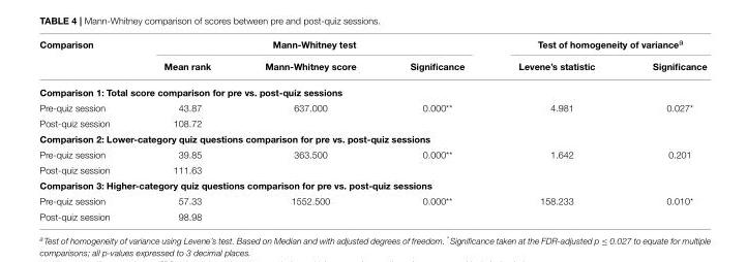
<table><thead><tr><td rowspan="2">Comparison</td><td colspan="3">Mann-Whitney test</td><td colspan="2">Test of homogeneity of variance<sup>a</sup></td></tr><tr><td>Mean rank</td><td>Mann-Whitney score</td><td>Significance</td><td>Levene’s statistic</td><td>Significance</td></tr></thead><tbody><tr><td colspan="6">Comparison 1: Total score comparison for pre vs. post-quiz sessions</td></tr><tr><td>Pre-quiz session</td><td>43.87</td><td>637.000</td><td>0.000**</td><td>4.981</td><td>0.027*</td></tr><tr><td>Post-quiz session</td><td>108.72</td><td></td><td></td><td></td><td></td></tr><tr><td colspan="6">Comparison 2: Lower-category quiz questions comparison for pre vs. post-quiz sessions</td></tr><tr><td>Pre-quiz session</td><td>39.85</td><td>363.500</td><td>0.000**</td><td>1.642</td><td>0.201</td></tr><tr><td>Post-quiz session</td><td>111.63</td><td></td><td></td><td></td><td></td></tr><tr><td colspan="6">Comparison 3: Higher-category quiz questions comparison for pre vs. post-quiz sessions</td></tr><tr><td>Pre-quiz session</td><td>57.33</td><td>1552.500</td><td>0.000**</td><td>158.233</td><td>0.010*</td></tr><tr><td>Post-quiz session</td><td>98.98</td><td></td><td></td><td></td><td></td></tr></tbody></table>